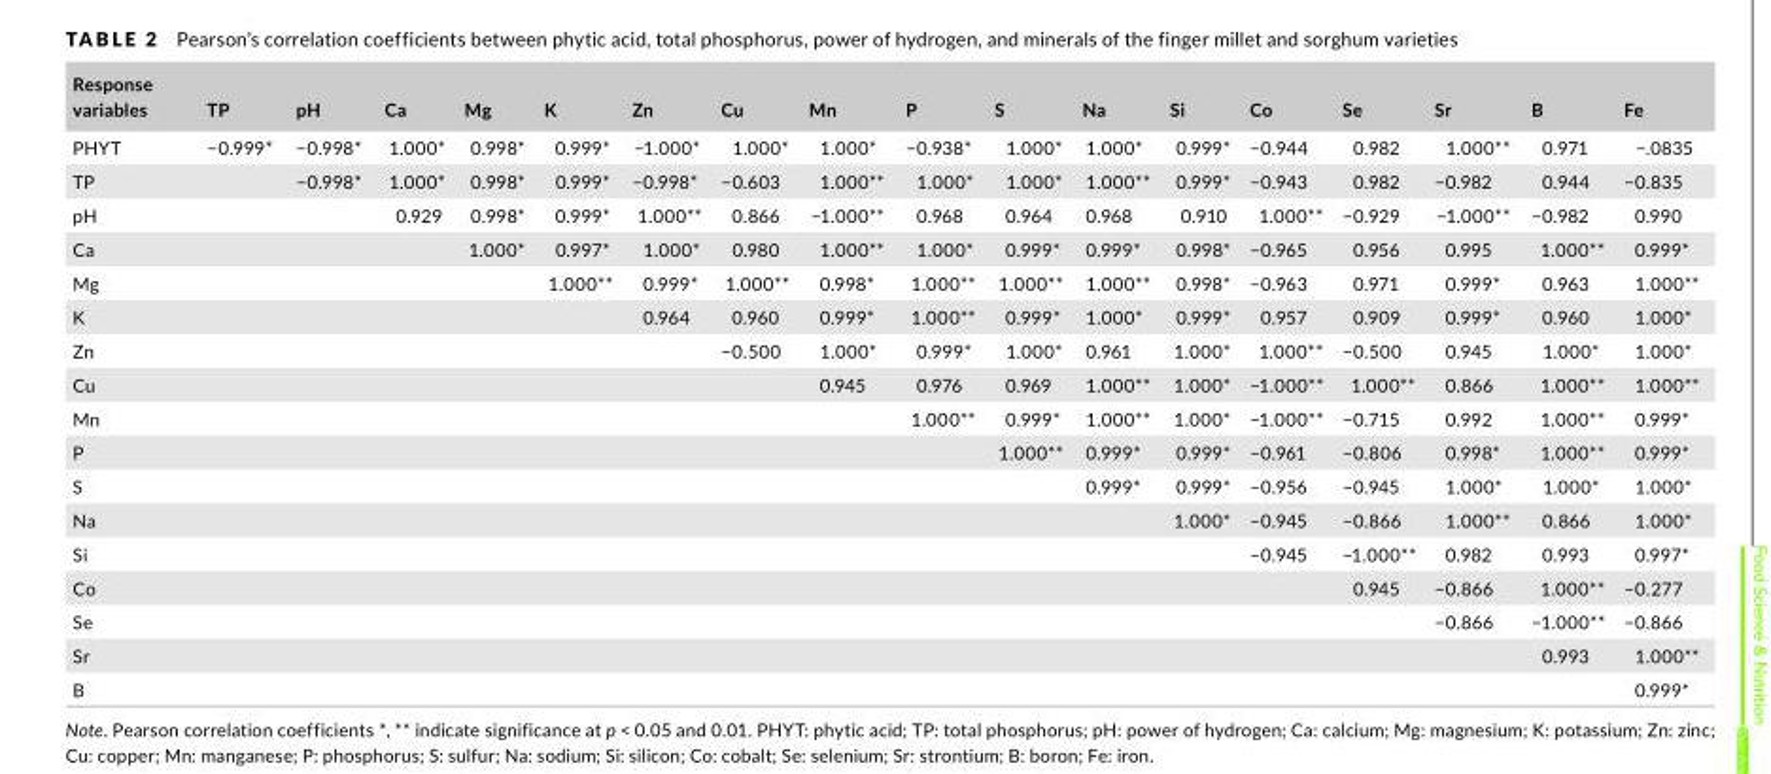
<table><thead><tr><td>Response variables</td><td>TP</td><td>pH</td><td>Ca</td><td>Mg</td><td>K</td><td>Zn</td><td>Cu</td><td>Mn</td><td>P</td><td>S</td><td>Na</td><td>Si</td><td>Co</td><td>Se</td><td>Sr</td><td>B</td><td>Fe</td></tr></thead><tbody><tr><td>PHYT</td><td>−0.999*</td><td>−0.998*</td><td>1.000*</td><td>0.998*</td><td>0.999*</td><td>−1.000*</td><td>1.000*</td><td>1.000*</td><td>−0.938*</td><td>1.000*</td><td>1.000*</td><td>0.999*</td><td>−0.944</td><td>0.982</td><td>1.000**</td><td>0.971</td><td>−.0835</td></tr><tr><td>TP</td><td></td><td>−0.998*</td><td>1.000*</td><td>0.998*</td><td>0.999*</td><td>−0.998*</td><td>−0.603</td><td>1.000**</td><td>1.000*</td><td>1.000*</td><td>1.000**</td><td>0.999*</td><td>−0.943</td><td>0.982</td><td>−0.982</td><td>0.944</td><td>−0.835</td></tr><tr><td>pH</td><td></td><td></td><td>0.929</td><td>0.998*</td><td>0.999*</td><td>1.000**</td><td>0.866</td><td>−1.000**</td><td>0.968</td><td>0.964</td><td>0.968</td><td>0.910</td><td>1.000**</td><td>−0.929</td><td>−1.000**</td><td>−0.982</td><td>0.990</td></tr><tr><td>Ca</td><td></td><td></td><td></td><td>1.000*</td><td>0.997*</td><td>1.000*</td><td>0.980</td><td>1.000**</td><td>1.000*</td><td>0.999*</td><td>0.999*</td><td>0.998*</td><td>−0.965</td><td>0.956</td><td>0.995</td><td>1.000**</td><td>0.999*</td></tr><tr><td>Mg</td><td></td><td></td><td></td><td></td><td>1.000**</td><td>0.999*</td><td>1.000**</td><td>0.998*</td><td>1.000**</td><td>1.000**</td><td>1.000**</td><td>0.998*</td><td>−0.963</td><td>0.971</td><td>0.999*</td><td>0.963</td><td>1.000**</td></tr><tr><td>K</td><td></td><td></td><td></td><td></td><td></td><td>0.964</td><td>0.960</td><td>0.999*</td><td>1.000**</td><td>0.999*</td><td>1.000*</td><td>0.999*</td><td>0.957</td><td>0.909</td><td>0.999*</td><td>0.960</td><td>1.000*</td></tr><tr><td>Zn</td><td></td><td></td><td></td><td></td><td></td><td></td><td>−0.500</td><td>1.000*</td><td>0.999*</td><td>1.000*</td><td>0.961</td><td>1.000*</td><td>1.000**</td><td>−0.500</td><td>0.945</td><td>1.000*</td><td>1.000*</td></tr><tr><td>Cu</td><td></td><td></td><td></td><td></td><td></td><td></td><td></td><td>0.945</td><td>0.976</td><td>0.969</td><td>1.000**</td><td>1.000*</td><td>−1.000**</td><td>1.000**</td><td>0.866</td><td>1.000**</td><td>1.000**</td></tr><tr><td>Mn</td><td></td><td></td><td></td><td></td><td></td><td></td><td></td><td></td><td>1.000**</td><td>0.999*</td><td>1.000**</td><td>1.000*</td><td>−1.000**</td><td>−0.715</td><td>0.992</td><td>1.000**</td><td>0.999*</td></tr><tr><td>P</td><td></td><td></td><td></td><td></td><td></td><td></td><td></td><td></td><td></td><td>1.000**</td><td>0.999*</td><td>0.999*</td><td>−0.961</td><td>−0.806</td><td>0.998*</td><td>1.000**</td><td>0.999*</td></tr><tr><td>S</td><td></td><td></td><td></td><td></td><td></td><td></td><td></td><td></td><td></td><td></td><td>0.999*</td><td>0.999*</td><td>−0.956</td><td>−0.945</td><td>1.000*</td><td>1.000*</td><td>1.000*</td></tr><tr><td>Na</td><td></td><td></td><td></td><td></td><td></td><td></td><td></td><td></td><td></td><td></td><td></td><td>1.000*</td><td>−0.945</td><td>−0.866</td><td>1.000**</td><td>0.866</td><td>1.000*</td></tr><tr><td>Si</td><td></td><td></td><td></td><td></td><td></td><td></td><td></td><td></td><td></td><td></td><td></td><td></td><td>−0.945</td><td>−1.000**</td><td>0.982</td><td>0.993</td><td>0.997*</td></tr><tr><td>Co</td><td></td><td></td><td></td><td></td><td></td><td></td><td></td><td></td><td></td><td></td><td></td><td></td><td></td><td>0.945</td><td>−0.866</td><td>1.000**</td><td>−0.277</td></tr><tr><td>Se</td><td></td><td></td><td></td><td></td><td></td><td></td><td></td><td></td><td></td><td></td><td></td><td></td><td></td><td></td><td>−0.866</td><td>−1.000**</td><td>−0.866</td></tr><tr><td>Sr</td><td></td><td></td><td></td><td></td><td></td><td></td><td></td><td></td><td></td><td></td><td></td><td></td><td></td><td></td><td></td><td>0.993</td><td>1.000**</td></tr><tr><td>B</td><td></td><td></td><td></td><td></td><td></td><td></td><td></td><td></td><td></td><td></td><td></td><td></td><td></td><td></td><td></td><td></td><td>0.999*</td></tr></tbody></table>